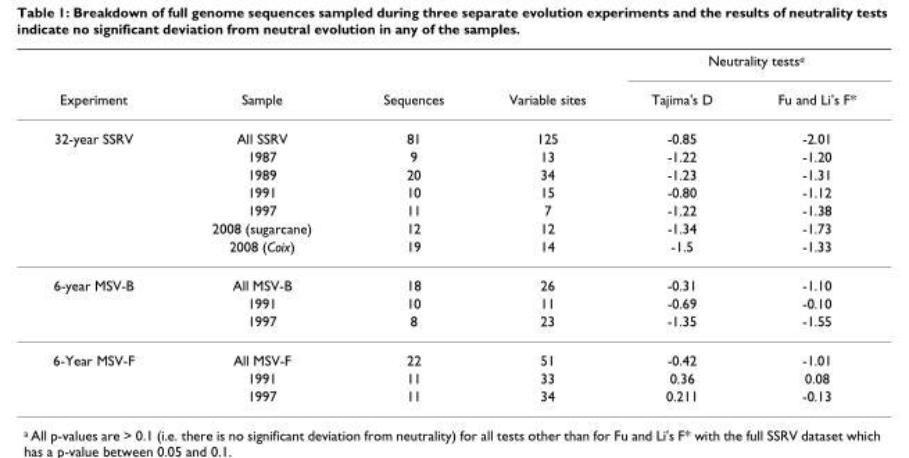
<table><thead><tr><td rowspan="2">Experiment</td><td rowspan="2">Sample</td><td rowspan="2">Sequences</td><td rowspan="2">Variable sites</td><td colspan="2">Neutrality tests<sup>a</sup></td></tr><tr><td>Tajima&#x27;s D</td><td>Fu and Li&#x27;s F*</td></tr></thead><tbody><tr><td rowspan="7">32-year SSRV</td><td>All SSRV</td><td>81</td><td>125</td><td>-0.85</td><td>-2.01</td></tr><tr><td>1987</td><td>9</td><td>13</td><td>-1.22</td><td>-1.20</td></tr><tr><td>1989</td><td>20</td><td>34</td><td>-1.23</td><td>-1.31</td></tr><tr><td>1991</td><td>10</td><td>15</td><td>-0.80</td><td>-1.12</td></tr><tr><td>1997</td><td>11</td><td>7</td><td>-1.22</td><td>-1.38</td></tr><tr><td>2008 (sugarcane)</td><td>12</td><td>12</td><td>-1.34</td><td>-1.73</td></tr><tr><td>2008 (Coix)</td><td>19</td><td>14</td><td>-1.5</td><td>-1.33</td></tr><tr><td rowspan="3">6-year MSV-B</td><td>All MSV-B</td><td>18</td><td>26</td><td>-0.31</td><td>-1.10</td></tr><tr><td>1991</td><td>10</td><td>11</td><td>-0.69</td><td>-0.10</td></tr><tr><td>1997</td><td>8</td><td>23</td><td>-1.35</td><td>-1.55</td></tr><tr><td rowspan="3">6-Year MSV-F</td><td>All MSV-F</td><td>22</td><td>51</td><td>-0.42</td><td>-1.01</td></tr><tr><td>1991</td><td>11</td><td>33</td><td>0.36</td><td>0.08</td></tr><tr><td>1997</td><td>11</td><td>34</td><td>0.211</td><td>-0.13</td></tr></tbody></table>